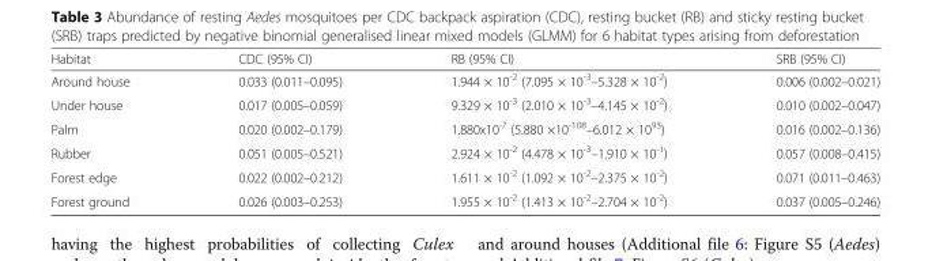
<table><thead><tr><td>Habitat</td><td>CDC (95% CI)</td><td>RB (95% CI)</td><td>SRB (95% CI)</td></tr></thead><tbody><tr><td>Around house</td><td>0.033 (0.011–0.095)</td><td>1.944 × 10<sup>-2</sup> (7.095 × 10<sup>-3</sup>–5.328 × 10<sup>-2</sup>)</td><td>0.006 (0.002–0.021)</td></tr><tr><td>Under house</td><td>0.017 (0.005–0.059)</td><td>9.329 × 10<sup>-3</sup> (2.010 × 10<sup>-3</sup>–4.145 × 10<sup>-2</sup>)</td><td>0.010 (0.002–0.047)</td></tr><tr><td>Palm</td><td>0.020 (0.002–0.179)</td><td>1.880x10<sup>-7</sup> (5.880 ×10<sup>-108</sup>–6.012 × 10<sup>93</sup>)</td><td>0.016 (0.002–0.136)</td></tr><tr><td>Rubber</td><td>0.051 (0.005–0.521)</td><td>2.924 × 10<sup>-2</sup> (4.478 × 10<sup>-3</sup>–1.910 × 10<sup>-1</sup>)</td><td>0.057 (0.008–0.415)</td></tr><tr><td>Forest edge</td><td>0.022 (0.002–0.212)</td><td>1.611 × 10<sup>-2</sup> (1.092 × 10<sup>-2</sup>–2.375 × 10<sup>-2</sup>)</td><td>0.071 (0.011–0.463)</td></tr><tr><td>Forest ground</td><td>0.026 (0.003–0.253)</td><td>1.955 × 10<sup>-2</sup> (1.413 × 10<sup>-2</sup>–2.704 × 10<sup>-2</sup>)</td><td>0.037 (0.005–0.246)</td></tr></tbody></table>